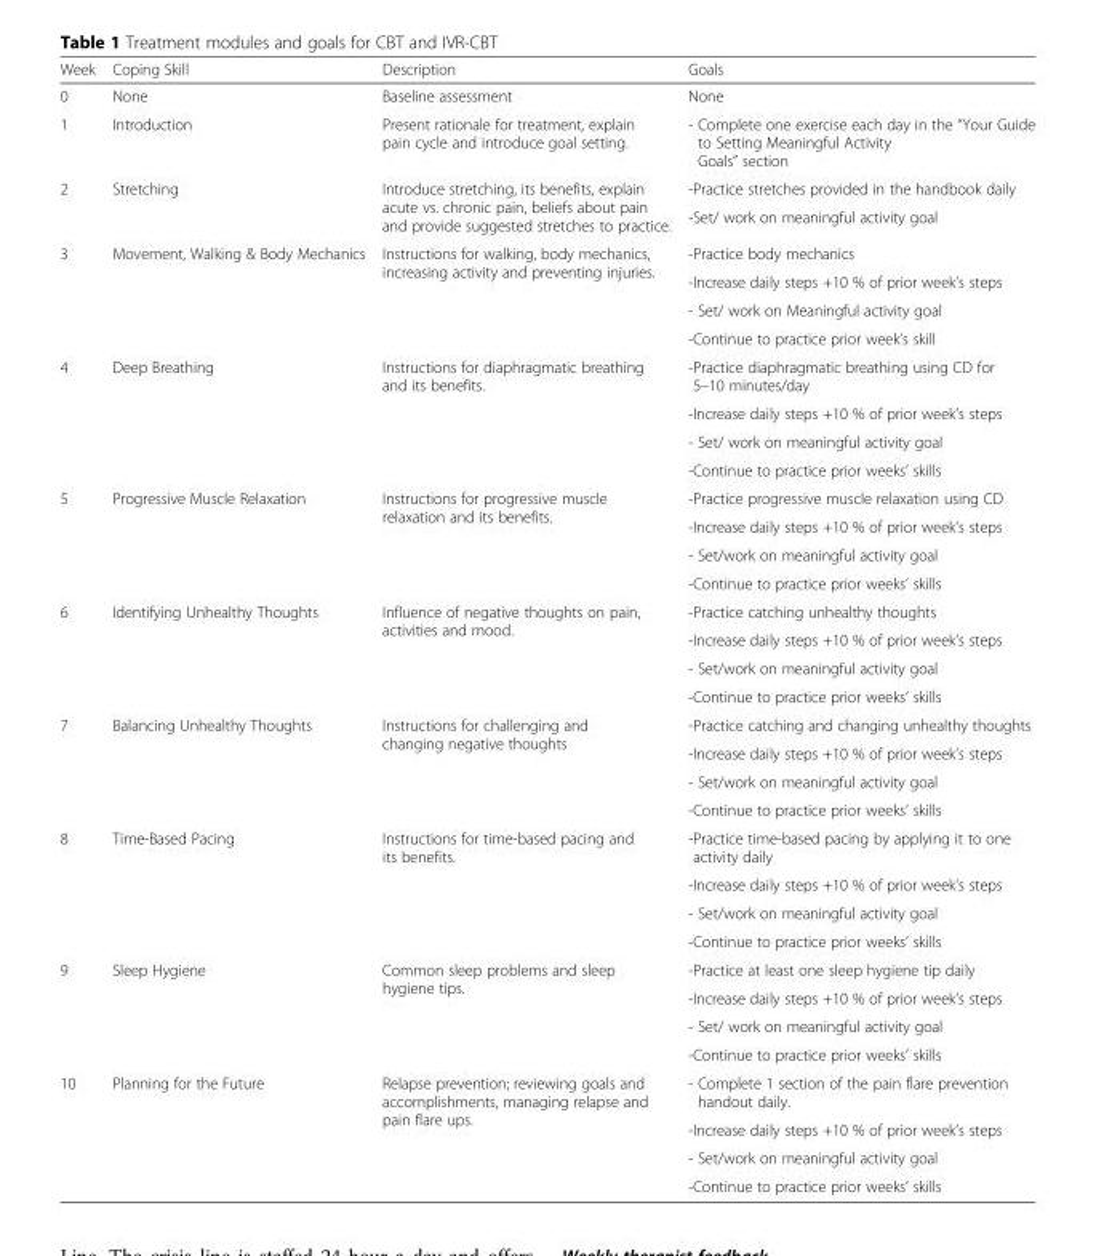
<table><thead><tr><td>Week</td><td>Coping Skill</td><td>Description</td><td>Goals</td></tr></thead><tbody><tr><td>0</td><td>None</td><td>Baseline assessment</td><td>None</td></tr><tr><td>1</td><td>Introduction</td><td>Present rationale for treatment, explain pain cycle and introduce goal setting.</td><td>- Complete one exercise each day in the “Your Guide to Setting Meaningful Activity Goals” section</td></tr><tr><td rowspan="2">2</td><td rowspan="2">Stretching</td><td rowspan="2">Introduce stretching, its benefits, explain acute vs. chronic pain, beliefs about pain and provide suggested stretches to practice.</td><td>-Practice stretches provided in the handbook daily</td></tr><tr><td>-Set/ work on meaningful activity goal</td></tr><tr><td rowspan="4">3</td><td rowspan="4">Movement, Walking &amp; Body Mechanics</td><td rowspan="4">Instructions for walking, body mechanics, increasing activity and preventing injuries.</td><td>-Practice body mechanics</td></tr><tr><td>-Increase daily steps +10 % of prior week’s steps</td></tr><tr><td>- Set/ work on Meaningful activity goal</td></tr><tr><td>-Continue to practice prior week’s skill</td></tr><tr><td rowspan="4">4</td><td rowspan="4">Deep Breathing</td><td rowspan="4">Instructions for diaphragmatic breathing and its benefits.</td><td>-Practice diaphragmatic breathing using CD for 5–10 minutes/day</td></tr><tr><td>-Increase daily steps +10 % of prior week’s steps</td></tr><tr><td>- Set/ work on meaningful activity goal</td></tr><tr><td>-Continue to practice prior weeks’ skills</td></tr><tr><td rowspan="4">5</td><td rowspan="4">Progressive Muscle Relaxation</td><td rowspan="4">Instructions for progressive muscle relaxation and its benefits.</td><td>-Practice progressive muscle relaxation using CD</td></tr><tr><td>-Increase daily steps +10 % of prior week’s steps</td></tr><tr><td>- Set/work on meaningful activity goal</td></tr><tr><td>-Continue to practice prior weeks’ skills</td></tr><tr><td rowspan="4">6</td><td rowspan="4">Identifying Unhealthy Thoughts</td><td rowspan="4">Influence of negative thoughts on pain, activities and mood.</td><td>-Practice catching unhealthy thoughts</td></tr><tr><td>-Increase daily steps +10 % of prior week’s steps</td></tr><tr><td>- Set/work on meaningful activity goal</td></tr><tr><td>-Continue to practice prior weeks’ skills</td></tr><tr><td rowspan="4">7</td><td rowspan="4">Balancing Unhealthy Thoughts</td><td rowspan="4">Instructions for challenging and changing negative thoughts</td><td>-Practice catching and changing unhealthy thoughts</td></tr><tr><td>-Increase daily steps +10 % of prior week’s steps</td></tr><tr><td>- Set/work on meaningful activity goal</td></tr><tr><td>-Continue to practice prior weeks’ skills</td></tr><tr><td rowspan="4">8</td><td rowspan="4">Time-Based Pacing</td><td rowspan="4">Instructions for time-based pacing and its benefits.</td><td>-Practice time-based pacing by applying it to one activity daily</td></tr><tr><td>-Increase daily steps +10 % of prior week’s steps</td></tr><tr><td>- Set/work on meaningful activity goal</td></tr><tr><td>-Continue to practice prior weeks’ skills</td></tr><tr><td rowspan="4">9</td><td rowspan="4">Sleep Hygiene</td><td rowspan="4">Common sleep problems and sleep hygiene tips.</td><td>-Practice at least one sleep hygiene tip daily</td></tr><tr><td>-Increase daily steps +10 % of prior week’s steps</td></tr><tr><td>- Set/ work on meaningful activity goal</td></tr><tr><td>-Continue to practice prior weeks’ skills</td></tr><tr><td rowspan="4">10</td><td rowspan="4">Planning for the Future</td><td rowspan="4">Relapse prevention; reviewing goals and accomplishments, managing relapse and pain flare ups.</td><td>- Complete 1 section of the pain flare prevention handout daily.</td></tr><tr><td>-Increase daily steps +10 % of prior week’s steps</td></tr><tr><td>- Set/work on meaningful activity goal</td></tr><tr><td>-Continue to practice prior weeks’ skills</td></tr></tbody></table>